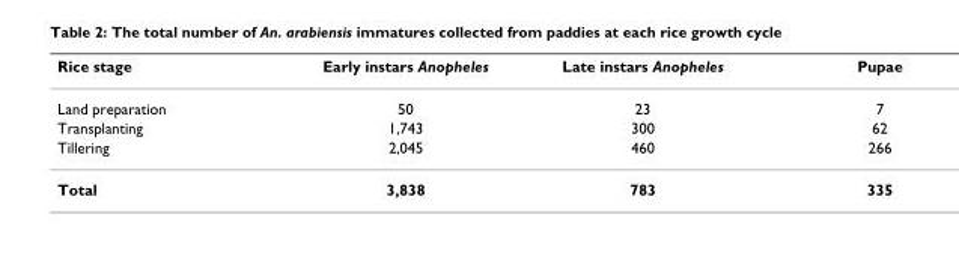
<table><thead><tr><td>Rice stage</td><td>Early instars Anopheles</td><td>Late instars Anopheles</td><td>Pupae</td></tr></thead><tbody><tr><td>Land preparation</td><td>50</td><td>23</td><td>7</td></tr><tr><td>Transplanting</td><td>1,743</td><td>300</td><td>62</td></tr><tr><td>Tillering</td><td>2,045</td><td>460</td><td>266</td></tr><tr><td>Total</td><td>3,838</td><td>783</td><td>335</td></tr></tbody></table>